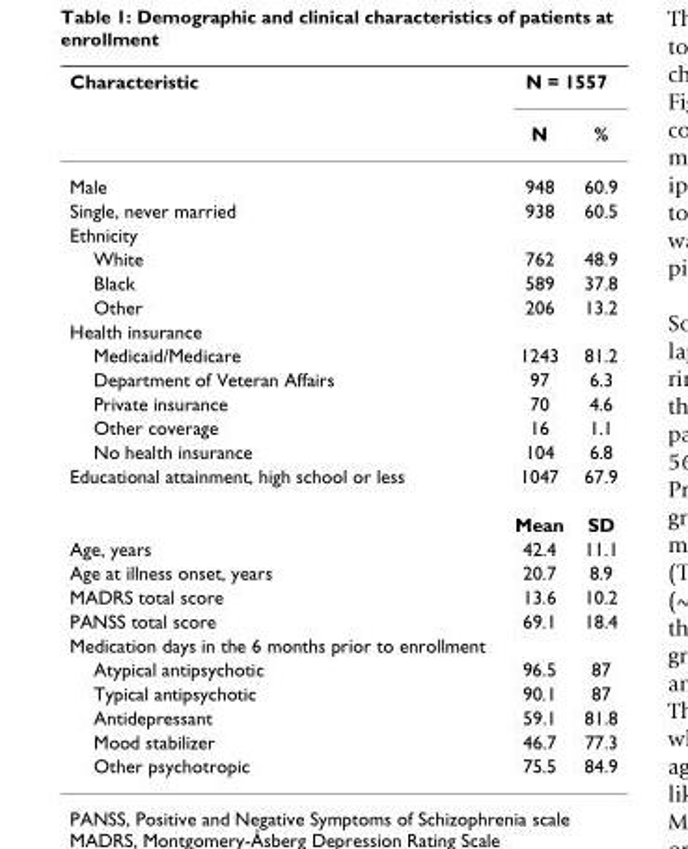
<table><thead><tr><td rowspan="2">Characteristic</td><td colspan="2">N = 1557</td></tr><tr><td>N</td><td>%</td></tr></thead><tbody><tr><td>Male</td><td>948</td><td>60.9</td></tr><tr><td>Single, never married</td><td>938</td><td>60.5</td></tr><tr><td colspan="3">Ethnicity</td></tr><tr><td>White</td><td>762</td><td>48.9</td></tr><tr><td>Black</td><td>589</td><td>37.8</td></tr><tr><td>Other</td><td>206</td><td>13.2</td></tr><tr><td colspan="3">Health insurance</td></tr><tr><td>Medicaid/Medicare</td><td>1243</td><td>81.2</td></tr><tr><td>Department of Veteran Affairs</td><td>97</td><td>6.3</td></tr><tr><td>Private insurance</td><td>70</td><td>4.6</td></tr><tr><td>Other coverage</td><td>16</td><td>1.1</td></tr><tr><td>No health insurance</td><td>104</td><td>6.8</td></tr><tr><td rowspan="2">Educational attainment, high school or less</td><td>1047</td><td>67.9</td></tr><tr><td>Mean</td><td>SD</td></tr><tr><td>Age, years</td><td>42.4</td><td>11.1</td></tr><tr><td>Age at illness onset, years</td><td>20.7</td><td>8.9</td></tr><tr><td>MADRS total score</td><td>13.6</td><td>10.2</td></tr><tr><td>PANSS total score</td><td>69.1</td><td>18.4</td></tr><tr><td colspan="3">Medication days in the 6 months prior to enrollment</td></tr><tr><td>Atypical antipsychotic</td><td>96.5</td><td>87</td></tr><tr><td>Typical antipsychotic</td><td>90.1</td><td>87</td></tr><tr><td>Antidepressant</td><td>59.1</td><td>81.8</td></tr><tr><td>Mood stabilizer</td><td>46.7</td><td>77.3</td></tr><tr><td>Other psychotropic</td><td>75.5</td><td>84.9</td></tr></tbody></table>